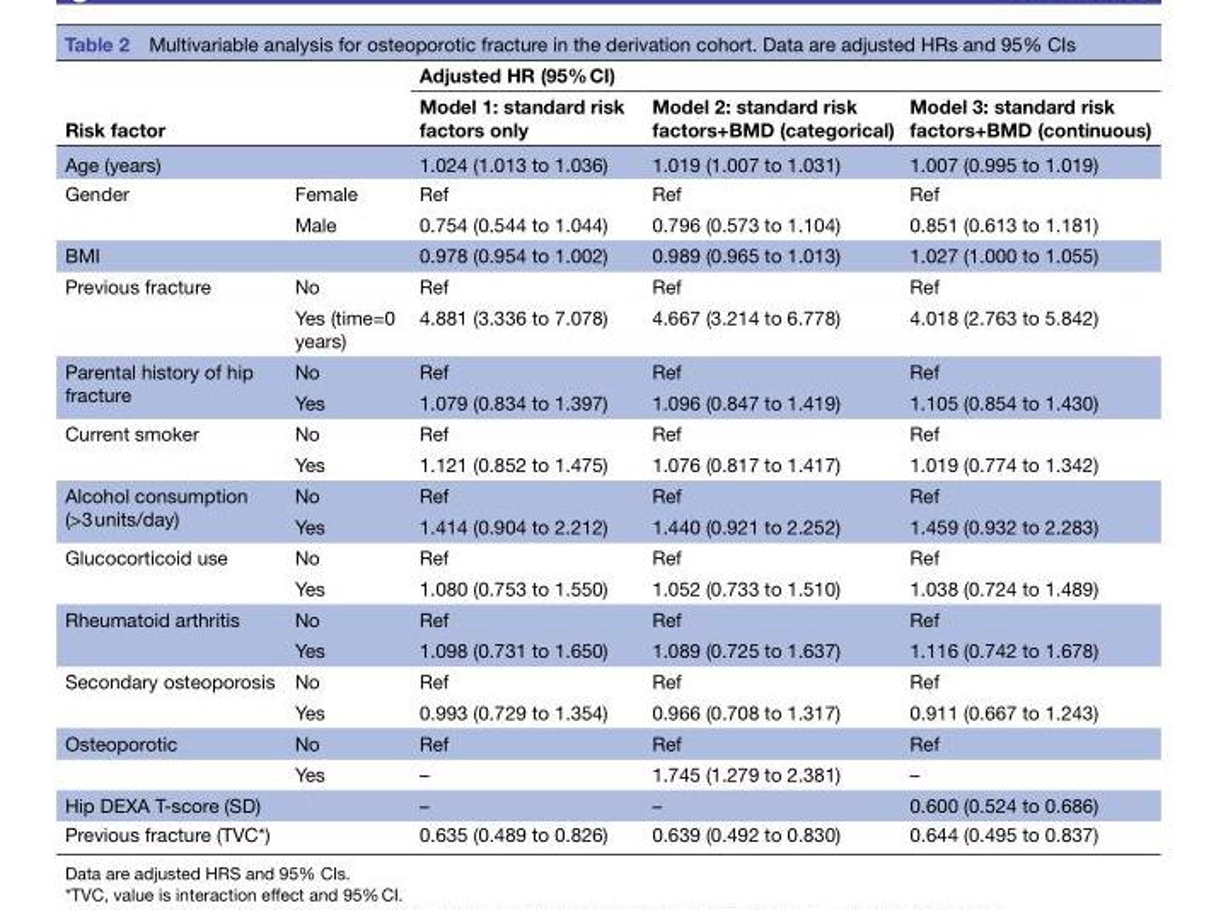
<table><thead><tr><td rowspan="2" colspan="2">Risk factor</td><td colspan="3">Adjusted HR (95% CI)</td></tr><tr><td rowspan="2">Model 1: standard risk factors only 1.024 (1.013 to 1.036)</td><td rowspan="2">Model 2: standard risk factors+BMD (categorical) 1.019 (1.007 to 1.031)</td><td rowspan="2">Model 3: standard risk factors+BMD (continuous) 1.007 (0.995 to 1.019)</td></tr><tr><td>Age (years)</td><td></td></tr></thead><tbody><tr><td rowspan="2">Gender</td><td>Female</td><td>Ref</td><td>Ref</td><td>Ref</td></tr><tr><td>Male</td><td>0.754 (0.544 to 1.044)</td><td>0.796 (0.573 to 1.104)</td><td>0.851 (0.613 to 1.181)</td></tr><tr><td>BMI</td><td></td><td>0.978 (0.954 to 1.002)</td><td>0.989 (0.965 to 1.013)</td><td>1.027 (1.000 to 1.055)</td></tr><tr><td rowspan="2">Previous fracture</td><td>No</td><td>Ref</td><td>Ref</td><td>Ref</td></tr><tr><td>Yes (time=0 years)</td><td>4.881 (3.336 to 7.078)</td><td>4.667 (3.214 to 6.778)</td><td>4.018 (2.763 to 5.842)</td></tr><tr><td rowspan="2">Parental history of hip fracture</td><td>No</td><td>Ref</td><td>Ref</td><td>Ref</td></tr><tr><td>Yes</td><td>1.079 (0.834 to 1.397)</td><td>1.096 (0.847 to 1.419)</td><td>1.105 (0.854 to 1.430)</td></tr><tr><td rowspan="2">Current smoker</td><td>No</td><td>Ref</td><td>Ref</td><td>Ref</td></tr><tr><td>Yes</td><td>1.121 (0.852 to 1.475)</td><td>1.076 (0.817 to 1.417)</td><td>1.019 (0.774 to 1.342)</td></tr><tr><td rowspan="2">Alcohol consumption (&gt;3 units/day)</td><td>No</td><td>Ref</td><td>Ref</td><td>Ref</td></tr><tr><td>Yes</td><td>1.414 (0.904 to 2.212)</td><td>1.440 (0.921 to 2.252)</td><td>1.459 (0.932 to 2.283)</td></tr><tr><td rowspan="2">Glucocorticoid use</td><td>No</td><td>Ref</td><td>Ref</td><td>Ref</td></tr><tr><td>Yes</td><td>1.080 (0.753 to 1.550)</td><td>1.052 (0.733 to 1.510)</td><td>1.038 (0.724 to 1.489)</td></tr><tr><td rowspan="2">Rheumatoid arthritis</td><td>No</td><td>Ref</td><td>Ref</td><td>Ref</td></tr><tr><td>Yes</td><td>1.098 (0.731 to 1.650)</td><td>1.089 (0.725 to 1.637)</td><td>1.116 (0.742 to 1.678)</td></tr><tr><td rowspan="2">Secondary osteoporosis</td><td>No</td><td>Ref</td><td>Ref</td><td>Ref</td></tr><tr><td>Yes</td><td>0.993 (0.729 to 1.354)</td><td>0.966 (0.708 to 1.317)</td><td>0.911 (0.667 to 1.243)</td></tr><tr><td rowspan="2">Osteoporotic</td><td>No</td><td>Ref</td><td>Ref</td><td>Ref</td></tr><tr><td>Yes</td><td>–</td><td>1.745 (1.279 to 2.381)</td><td>–</td></tr><tr><td>Hip DEXA T-score (SD)</td><td></td><td>–</td><td>–</td><td>0.600 (0.524 to 0.686)</td></tr><tr><td>Previous fracture (TVC*)</td><td></td><td>0.635 (0.489 to 0.826)</td><td>0.639 (0.492 to 0.830)</td><td>0.644 (0.495 to 0.837)</td></tr></tbody></table>